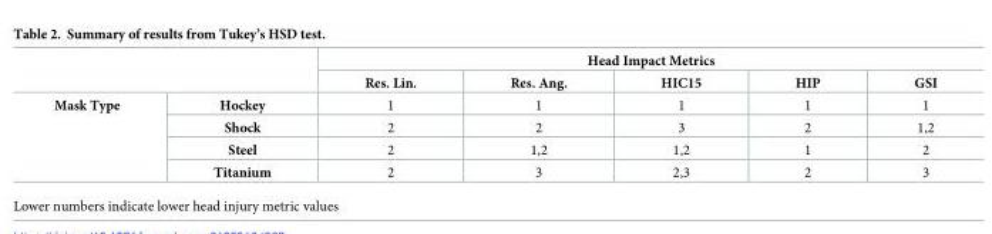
<table><thead><tr><td rowspan="2"></td><td rowspan="2"></td><td colspan="5">Head Impact Metrics</td></tr><tr><td>Res. Lin.</td><td>Res. Ang.</td><td>HIC15</td><td>HIP</td><td>GSI</td></tr></thead><tbody><tr><td rowspan="4">Mask Type</td><td>Hockey</td><td>1</td><td>1</td><td>1</td><td>1</td><td>1</td></tr><tr><td>Shock</td><td>2</td><td>2</td><td>3</td><td>2</td><td>1,2</td></tr><tr><td>Steel</td><td>2</td><td>1,2</td><td>1,2</td><td>1</td><td>2</td></tr><tr><td>Titanium</td><td>2</td><td>3</td><td>2,3</td><td>2</td><td>3</td></tr></tbody></table>